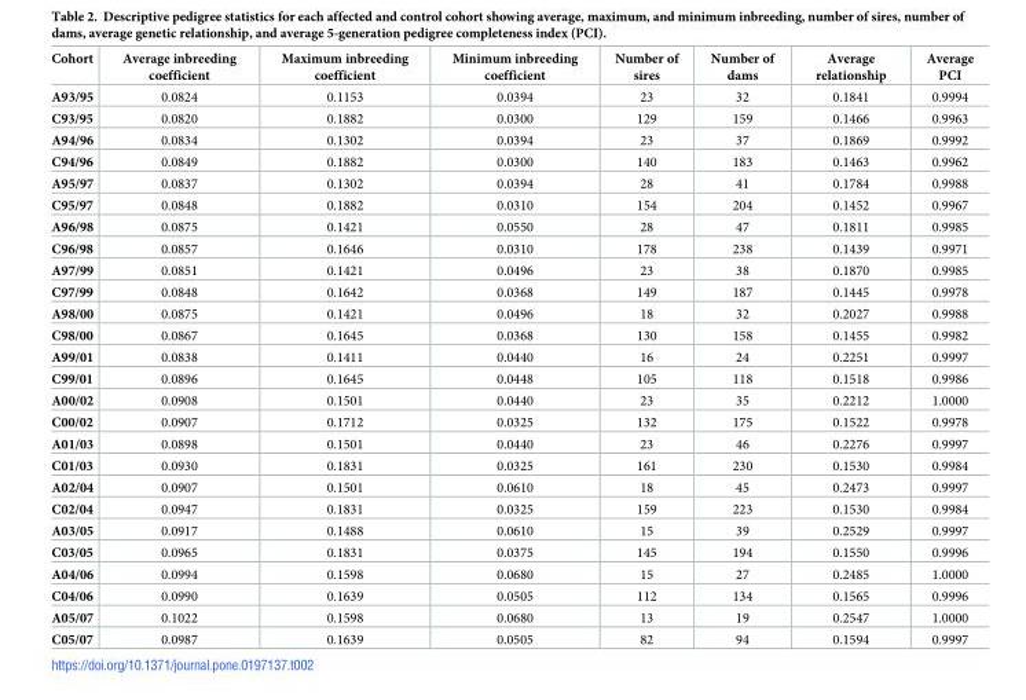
<table><thead><tr><td>Cohort</td><td>Average inbreeding coefficient</td><td>Maximum inbreeding coefficient</td><td>Minimum inbreeding coefficient</td><td>Number of sires</td><td>Number of dams</td><td>Average relationship</td><td>Average PCI</td></tr></thead><tbody><tr><td>A93/95</td><td>0.0824</td><td>0.1153</td><td>0.0394</td><td>23</td><td>32</td><td>0.1841</td><td>0.9994</td></tr><tr><td>C93/95</td><td>0.0820</td><td>0.1882</td><td>0.0300</td><td>129</td><td>159</td><td>0.1466</td><td>0.9963</td></tr><tr><td>A94/96</td><td>0.0834</td><td>0.1302</td><td>0.0394</td><td>23</td><td>37</td><td>0.1869</td><td>0.9992</td></tr><tr><td>C94/96</td><td>0.0849</td><td>0.1882</td><td>0.0300</td><td>140</td><td>183</td><td>0.1463</td><td>0.9962</td></tr><tr><td>A95/97</td><td>0.0837</td><td>0.1302</td><td>0.0394</td><td>28</td><td>41</td><td>0.1784</td><td>0.9988</td></tr><tr><td>C95/97</td><td>0.0848</td><td>0.1882</td><td>0.0310</td><td>154</td><td>204</td><td>0.1452</td><td>0.9967</td></tr><tr><td>A96/98</td><td>0.0875</td><td>0.1421</td><td>0.0550</td><td>28</td><td>47</td><td>0.1811</td><td>0.9985</td></tr><tr><td>C96/98</td><td>0.0857</td><td>0.1646</td><td>0.0310</td><td>178</td><td>238</td><td>0.1439</td><td>0.9971</td></tr><tr><td>A97/99</td><td>0.0851</td><td>0.1421</td><td>0.0496</td><td>23</td><td>38</td><td>0.1870</td><td>0.9985</td></tr><tr><td>C97/99</td><td>0.0848</td><td>0.1642</td><td>0.0368</td><td>149</td><td>187</td><td>0.1445</td><td>0.9978</td></tr><tr><td>A98/00</td><td>0.0875</td><td>0.1421</td><td>0.0496</td><td>18</td><td>32</td><td>0.2027</td><td>0.9988</td></tr><tr><td>C98/00</td><td>0.0867</td><td>0.1645</td><td>0.0368</td><td>130</td><td>158</td><td>0.1455</td><td>0.9982</td></tr><tr><td>A99/01</td><td>0.0838</td><td>0.1411</td><td>0.0440</td><td>16</td><td>24</td><td>0.2251</td><td>0.9997</td></tr><tr><td>C99/01</td><td>0.0896</td><td>0.1645</td><td>0.0448</td><td>105</td><td>118</td><td>0.1518</td><td>0.9986</td></tr><tr><td>A00/02</td><td>0.0908</td><td>0.1501</td><td>0.0440</td><td>23</td><td>35</td><td>0.2212</td><td>1.0000</td></tr><tr><td>C00/02</td><td>0.0907</td><td>0.1712</td><td>0.0325</td><td>132</td><td>175</td><td>0.1522</td><td>0.9978</td></tr><tr><td>A01/03</td><td>0.0898</td><td>0.1501</td><td>0.0440</td><td>23</td><td>46</td><td>0.2276</td><td>0.9997</td></tr><tr><td>C01/03</td><td>0.0930</td><td>0.1831</td><td>0.0325</td><td>161</td><td>230</td><td>0.1530</td><td>0.9984</td></tr><tr><td>A02/04</td><td>0.0907</td><td>0.1501</td><td>0.0610</td><td>18</td><td>45</td><td>0.2473</td><td>0.9997</td></tr><tr><td>C02/04</td><td>0.0947</td><td>0.1831</td><td>0.0325</td><td>159</td><td>223</td><td>0.1530</td><td>0.9984</td></tr><tr><td>A03/05</td><td>0.0917</td><td>0.1488</td><td>0.0610</td><td>15</td><td>39</td><td>0.2529</td><td>0.9997</td></tr><tr><td>C03/05</td><td>0.0965</td><td>0.1831</td><td>0.0375</td><td>145</td><td>194</td><td>0.1550</td><td>0.9996</td></tr><tr><td>A04/06</td><td>0.0994</td><td>0.1598</td><td>0.0680</td><td>15</td><td>27</td><td>0.2485</td><td>1.0000</td></tr><tr><td>C04/06</td><td>0.0990</td><td>0.1639</td><td>0.0505</td><td>112</td><td>134</td><td>0.1565</td><td>0.9996</td></tr><tr><td>A05/07</td><td>0.1022</td><td>0.1598</td><td>0.0680</td><td>13</td><td>19</td><td>0.2547</td><td>1.0000</td></tr><tr><td>C05/07</td><td>0.0987</td><td>0.1639</td><td>0.0505</td><td>82</td><td>94</td><td>0.1594</td><td>0.9997</td></tr></tbody></table>